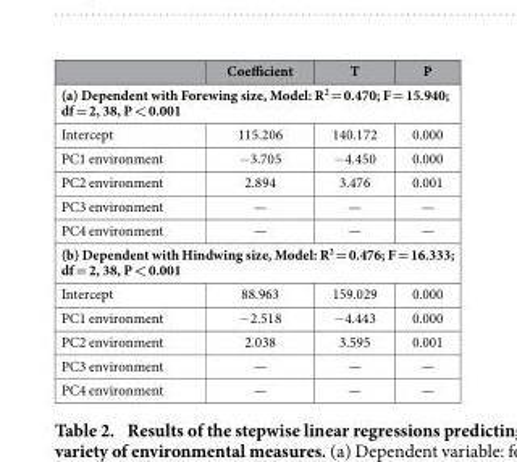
<table><thead><tr><td></td><td>Coefficient</td><td>T</td><td>P</td></tr></thead><tbody><tr><td colspan="4">(a) Dependent with Forewing size, Model: R<sup>2</sup> = 0.470; F = 15.940; df = 2, 38, P &lt; 0.001</td></tr><tr><td>Intercept</td><td>115.206</td><td>140.172</td><td>0.000</td></tr><tr><td>PC1 environment</td><td>− 3.705</td><td>− 4.450</td><td>0.000</td></tr><tr><td>PC2 environment</td><td>2.894</td><td>3.476</td><td>0.001</td></tr><tr><td>PC3 environment</td><td>—</td><td>—</td><td>—</td></tr><tr><td>PC4 environment</td><td>—</td><td>—</td><td>—</td></tr><tr><td colspan="4">(b) Dependent with Hindwing size, Model: R<sup>2</sup> = 0.476; F = 16.333; df = 2, 38, P &lt; 0.001</td></tr><tr><td>Intercept</td><td>88.963</td><td>159.029</td><td>0.000</td></tr><tr><td>PC1 environment</td><td>− 2.518</td><td>− 4.443</td><td>0.000</td></tr><tr><td>PC2 environment</td><td>2.038</td><td>3.595</td><td>0.001</td></tr><tr><td>PC3 environment</td><td>—</td><td>—</td><td>—</td></tr><tr><td>PC4 environment</td><td>—</td><td>—</td><td>—</td></tr></tbody></table>